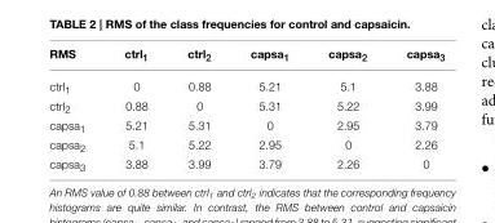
<table><thead><tr><td>RMS</td><td>ctrl<sub>1</sub></td><td>ctrl<sub>2</sub></td><td>capsa<sub>1</sub></td><td>capsa<sub>2</sub></td><td>capsa<sub>3</sub></td></tr></thead><tbody><tr><td>ctrl<sub>1</sub></td><td>0</td><td>0.88</td><td>5.21</td><td>5.1</td><td>3.88</td></tr><tr><td>ctrl<sub>2</sub></td><td>0.88</td><td>0</td><td>5.31</td><td>5.22</td><td>3.99</td></tr><tr><td>capsa<sub>1</sub></td><td>5.21</td><td>5.31</td><td>0</td><td>2.95</td><td>3.79</td></tr><tr><td>capsa<sub>2</sub></td><td>5.1</td><td>5.22</td><td>2.95</td><td>0</td><td>2.26</td></tr><tr><td>capsa<sub>3</sub></td><td>3.88</td><td>3.99</td><td>3.79</td><td>2.26</td><td>0</td></tr></tbody></table>